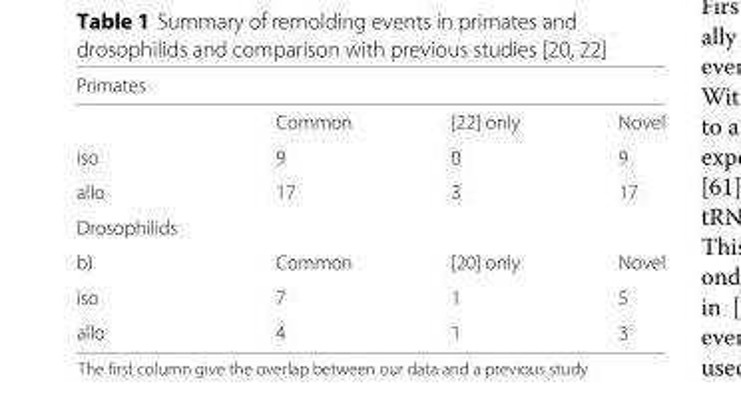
<table><thead><tr><td>Primates</td><td></td><td></td><td></td></tr></thead><tbody><tr><td></td><td>Common</td><td>[22] only</td><td>Novel</td></tr><tr><td>iso</td><td>9</td><td>0</td><td>9</td></tr><tr><td>allo</td><td>17</td><td>3</td><td>17</td></tr><tr><td colspan="4">Drosophilids</td></tr><tr><td>b)</td><td>Common</td><td>[20] only</td><td>Novel</td></tr><tr><td>iso</td><td>7</td><td>1</td><td>5</td></tr><tr><td>allo</td><td>4</td><td>1</td><td>3</td></tr></tbody></table>